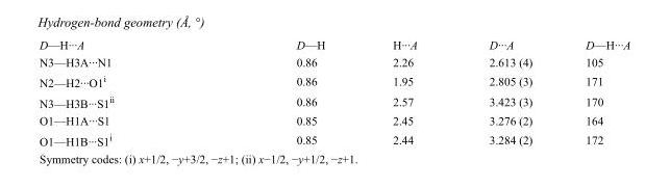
<table><tbody><tr><td>D—H···A</td><td>D—H</td><td>H···A</td><td>D···A</td><td>D—H···A</td></tr><tr><td>N3—H3A···N1</td><td>0.86</td><td>2.26</td><td>2.613 (4)</td><td>105</td></tr><tr><td>N2—H2···O1<sup>i</sup></td><td>0.86</td><td>1.95</td><td>2.805 (3)</td><td>171</td></tr><tr><td>N3—H3B···S1<sup>ii</sup></td><td>0.86</td><td>2.57</td><td>3.423 (3)</td><td>170</td></tr><tr><td>O1—H1A···S1</td><td>0.85</td><td>2.45</td><td>3.276 (2)</td><td>164</td></tr><tr><td>O1—H1B···S1<sup>i</sup></td><td>0.85</td><td>2.44</td><td>3.284 (2)</td><td>172</td></tr></tbody></table>